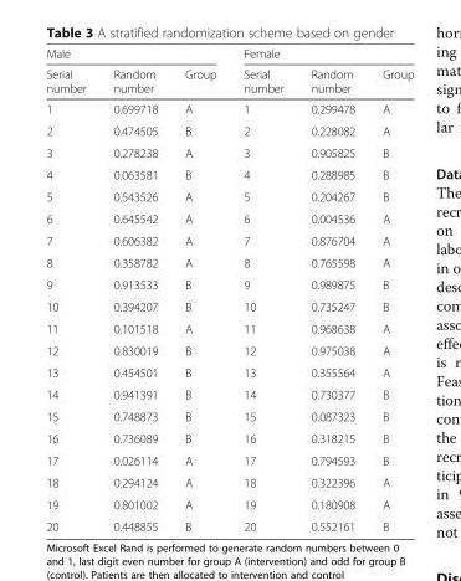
<table><thead><tr><td colspan="3">Male</td><td colspan="3">Female</td></tr><tr><td>Serial number</td><td>Random number</td><td>Group</td><td>Serial number</td><td>Random number</td><td>Group</td></tr></thead><tbody><tr><td>1</td><td>0.699718</td><td>A</td><td>1</td><td>0.299478</td><td>A</td></tr><tr><td>2</td><td>0.474505</td><td>B</td><td>2</td><td>0.228082</td><td>A</td></tr><tr><td>3</td><td>0.278238</td><td>A</td><td>3</td><td>0.905825</td><td>B</td></tr><tr><td>4</td><td>0.063581</td><td>B</td><td>4</td><td>0.288985</td><td>B</td></tr><tr><td>5</td><td>0.543526</td><td>A</td><td>5</td><td>0.204267</td><td>B</td></tr><tr><td>6</td><td>0.645542</td><td>A</td><td>6</td><td>0.004536</td><td>A</td></tr><tr><td>7</td><td>0.606382</td><td>A</td><td>7</td><td>0.876704</td><td>A</td></tr><tr><td>8</td><td>0.358782</td><td>A</td><td>8</td><td>0.765598</td><td>A</td></tr><tr><td>9</td><td>0.913533</td><td>B</td><td>9</td><td>0.989875</td><td>B</td></tr><tr><td>10</td><td>0.394207</td><td>B</td><td>10</td><td>0.735247</td><td>B</td></tr><tr><td>11</td><td>0.101518</td><td>A</td><td>11</td><td>0.968638</td><td>A</td></tr><tr><td>12</td><td>0.830019</td><td>B</td><td>12</td><td>0.975038</td><td>A</td></tr><tr><td>13</td><td>0.454501</td><td>B</td><td>13</td><td>0.355564</td><td>A</td></tr><tr><td>14</td><td>0.941391</td><td>B</td><td>14</td><td>0.730377</td><td>B</td></tr><tr><td>15</td><td>0.748873</td><td>B</td><td>15</td><td>0.087323</td><td>B</td></tr><tr><td>16</td><td>0.736089</td><td>B</td><td>16</td><td>0.318215</td><td>B</td></tr><tr><td>17</td><td>0.026114</td><td>A</td><td>17</td><td>0.794593</td><td>B</td></tr><tr><td>18</td><td>0.294124</td><td>A</td><td>18</td><td>0.322396</td><td>A</td></tr><tr><td>19</td><td>0.801002</td><td>A</td><td>19</td><td>0.180908</td><td>A</td></tr><tr><td>20</td><td>0.448855</td><td>B</td><td>20</td><td>0.552161</td><td>B</td></tr></tbody></table>